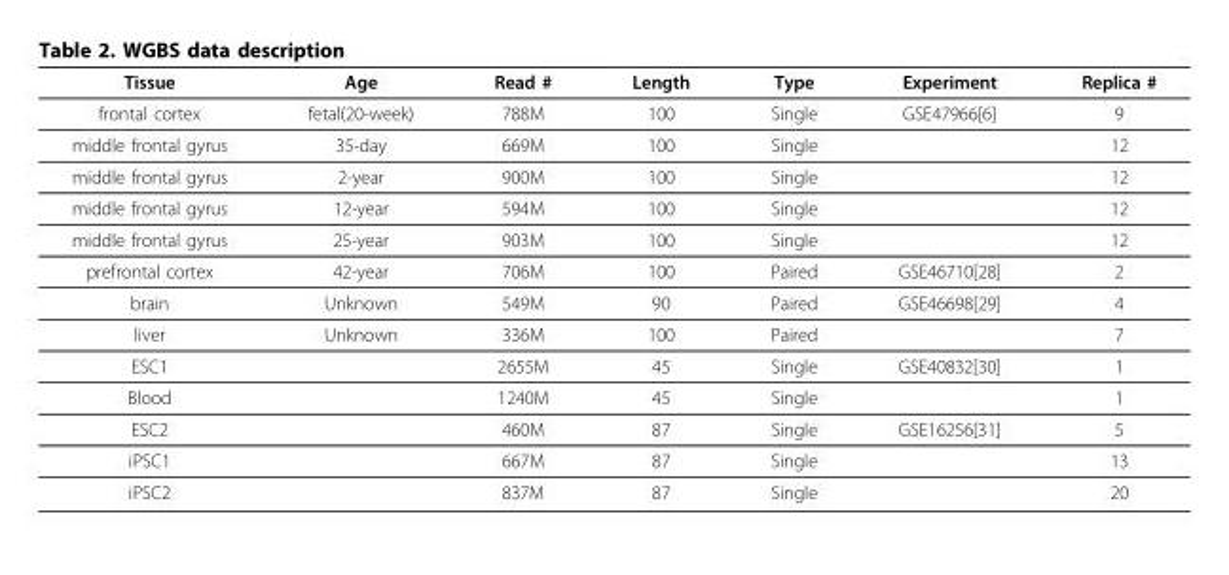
<table><thead><tr><td>Tissue</td><td>Age</td><td>Read #</td><td>Length</td><td>Type</td><td>Experiment</td><td>Replica #</td></tr></thead><tbody><tr><td>frontal cortex</td><td>fetal(20-week)</td><td>788M</td><td>100</td><td>Single</td><td>GSE47966[6]</td><td>9</td></tr><tr><td>middle frontal gyrus</td><td>35-day</td><td>669M</td><td>100</td><td>Single</td><td></td><td>12</td></tr><tr><td>middle frontal gyrus</td><td>2-year</td><td>900M</td><td>100</td><td>Single</td><td></td><td>12</td></tr><tr><td>middle frontal gyrus</td><td>12-year</td><td>594M</td><td>100</td><td>Single</td><td></td><td>12</td></tr><tr><td>middle frontal gyrus</td><td>25-year</td><td>903M</td><td>100</td><td>Single</td><td></td><td>12</td></tr><tr><td>prefrontal cortex</td><td>42-year</td><td>706M</td><td>100</td><td>Paired</td><td>GSE46710[28]</td><td>2</td></tr><tr><td>brain</td><td>Unknown</td><td>549M</td><td>90</td><td>Paired</td><td>GSE46698[29]</td><td>4</td></tr><tr><td>liver</td><td>Unknown</td><td>336M</td><td>100</td><td>Paired</td><td></td><td>7</td></tr><tr><td>ESC1</td><td></td><td>2655M</td><td>45</td><td>Single</td><td>GSE40832[30]</td><td>1</td></tr><tr><td>Blood</td><td></td><td>1240M</td><td>45</td><td>Single</td><td></td><td>1</td></tr><tr><td>ESC2</td><td></td><td>460M</td><td>87</td><td>Single</td><td>GSE16256[31]</td><td>5</td></tr><tr><td>iPSC1</td><td></td><td>667M</td><td>87</td><td>Single</td><td></td><td>13</td></tr><tr><td>iPSC2</td><td></td><td>837M</td><td>87</td><td>Single</td><td></td><td>20</td></tr></tbody></table>